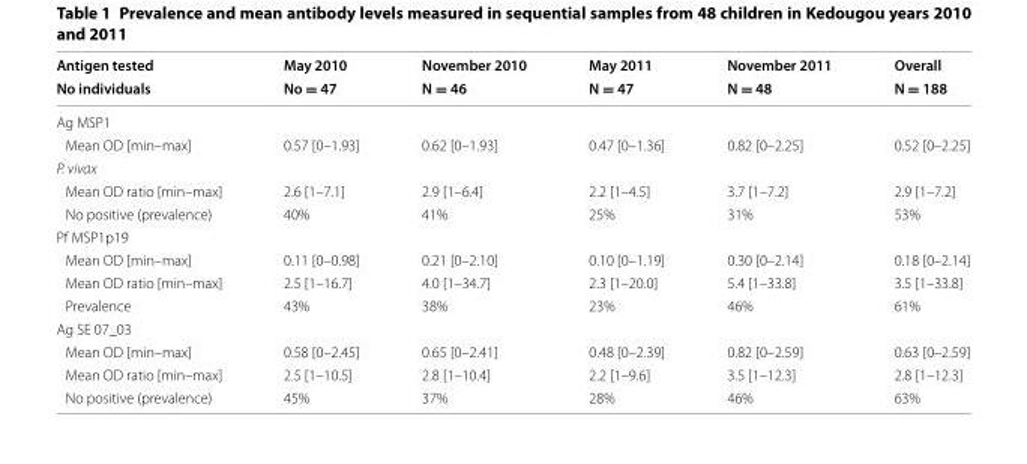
<table><thead><tr><td rowspan="2">Antigen tested No individuals</td><td rowspan="2">May 2010 No = 47</td><td rowspan="2">November 2010 N = 46</td><td rowspan="2">May 2011 N = 47</td><td rowspan="2">November 2011 N = 48</td><td rowspan="2">Overall N = 188</td></tr><tr></tr></thead><tbody><tr><td colspan="6">Ag MSP1</td></tr><tr><td>Mean OD [min–max]</td><td>0.57 [0–1.93]</td><td>0.62 [0–1.93]</td><td>0.47 [0–1.36]</td><td>0.82 [0–2.25]</td><td>0.52 [0–2.25]</td></tr><tr><td colspan="6">P. vivax</td></tr><tr><td>Mean OD ratio [min–max]</td><td>2.6 [1–7.1]</td><td>2.9 [1–6.4]</td><td>2.2 [1–4.5]</td><td>3.7 [1–7.2]</td><td>2.9 [1–7.2]</td></tr><tr><td>No positive (prevalence)</td><td>40%</td><td>41%</td><td>25%</td><td>31%</td><td>53%</td></tr><tr><td colspan="6">Pf MSP1p19</td></tr><tr><td>Mean OD [min–max]</td><td>0.11 [0–0.98]</td><td>0.21 [0–2.10]</td><td>0.10 [0–1.19]</td><td>0.30 [0–2.14]</td><td>0.18 [0–2.14]</td></tr><tr><td>Mean OD ratio [min–max]</td><td>2.5 [1–16.7]</td><td>4.0 [1–34.7]</td><td>2.3 [1–20.0]</td><td>5.4 [1–33.8]</td><td>3.5 [1–33.8]</td></tr><tr><td>Prevalence</td><td>43%</td><td>38%</td><td>23%</td><td>46%</td><td>61%</td></tr><tr><td colspan="6">Ag SE 07_03</td></tr><tr><td>Mean OD [min–max]</td><td>0.58 [0–2.45]</td><td>0.65 [0–2.41]</td><td>0.48 [0–2.39]</td><td>0.82 [0–2.59]</td><td>0.63 [0–2.59]</td></tr><tr><td>Mean OD ratio [min–max]</td><td>2.5 [1–10.5]</td><td>2.8 [1–10.4]</td><td>2.2 [1–9.6]</td><td>3.5 [1–12.3]</td><td>2.8 [1–12.3]</td></tr><tr><td>No positive (prevalence)</td><td>45%</td><td>37%</td><td>28%</td><td>46%</td><td>63%</td></tr></tbody></table>